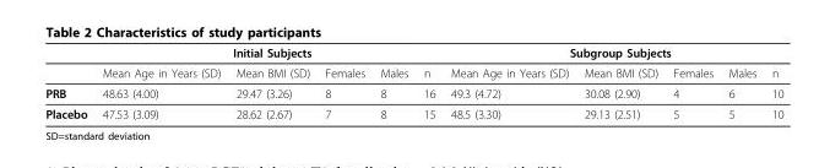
<table><thead><tr><td rowspan="2"></td><td colspan="5">Initial Subjects</td><td colspan="5">Subgroup Subjects</td></tr><tr><td>Mean Age in Years (SD)</td><td>Mean BMI (SD)</td><td>Females</td><td>Males</td><td>n</td><td>Mean Age in Years (SD)</td><td>Mean BMI (SD)</td><td>Females</td><td>Males</td><td>n</td></tr></thead><tbody><tr><td>PRB</td><td>48.63 (4.00)</td><td>29.47 (3.26)</td><td>8</td><td>8</td><td>16</td><td>49.3 (4.72)</td><td>30.08 (2.90)</td><td>4</td><td>6</td><td>10</td></tr><tr><td>Placebo</td><td>47.53 (3.09)</td><td>28.62 (2.67)</td><td>7</td><td>8</td><td>15</td><td>48.5 (3.30)</td><td>29.13 (2.51)</td><td>5</td><td>5</td><td>10</td></tr></tbody></table>